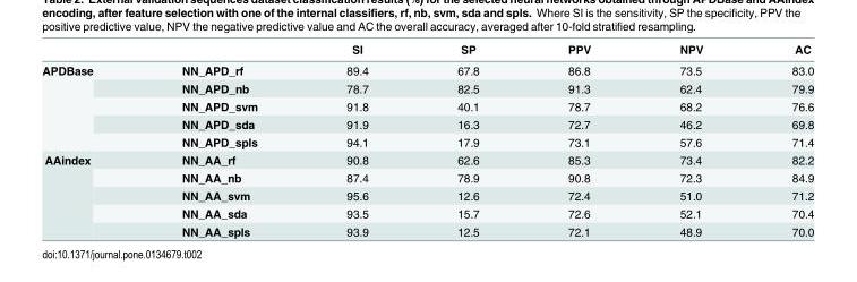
<table><thead><tr><td></td><td></td><td>SI</td><td>SP</td><td>PPV</td><td>NPV</td><td>AC</td></tr></thead><tbody><tr><td rowspan="5">APDBase</td><td>NN_APD_rf</td><td>89.4</td><td>67.8</td><td>86.8</td><td>73.5</td><td>83.0</td></tr><tr><td>NN_APD_nb</td><td>78.7</td><td>82.5</td><td>91.3</td><td>62.4</td><td>79.9</td></tr><tr><td>NN_APD_svm</td><td>91.8</td><td>40.1</td><td>78.7</td><td>68.2</td><td>76.6</td></tr><tr><td>NN_APD_sda</td><td>91.9</td><td>16.3</td><td>72.7</td><td>46.2</td><td>69.8</td></tr><tr><td>NN_APD_spls</td><td>94.1</td><td>17.9</td><td>73.1</td><td>57.6</td><td>71.4</td></tr><tr><td rowspan="5">AAindex</td><td>NN_AA_rf</td><td>90.8</td><td>62.6</td><td>85.3</td><td>73.4</td><td>82.2</td></tr><tr><td>NN_AA_nb</td><td>87.4</td><td>78.9</td><td>90.8</td><td>72.3</td><td>84.9</td></tr><tr><td>NN_AA_svm</td><td>95.6</td><td>12.6</td><td>72.4</td><td>51.0</td><td>71.2</td></tr><tr><td>NN_AA_sda</td><td>93.5</td><td>15.7</td><td>72.6</td><td>52.1</td><td>70.4</td></tr><tr><td>NN_AA_spls</td><td>93.9</td><td>12.5</td><td>72.1</td><td>48.9</td><td>70.0</td></tr></tbody></table>